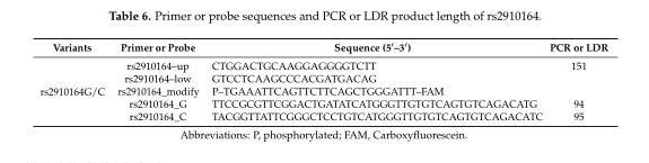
<table><thead><tr><td>Variants</td><td>Primer or Probe</td><td>Sequence (5′–3′)</td><td>PCR or LDR</td></tr></thead><tbody><tr><td rowspan="5">rs2910164G/C</td><td>rs2910164–up</td><td>CTGGACTGCAAGGAGGGGTCTT</td><td>151</td></tr><tr><td>rs2910164–low</td><td>GTCCTCAAGCCCACGATGACAG</td><td></td></tr><tr><td>rs2910164_modify</td><td>P–TGAAATTCAGTTCTTCAGCTGGGATTT–FAM</td><td></td></tr><tr><td>rs2910164_G</td><td>TTCCGCGTTCGGACTGATATCATGGGTTGTGTCAGTGTCAGACATG</td><td>94</td></tr><tr><td>rs2910164_C</td><td>TACGGTTATTCGGGCTCCTGTCATGGGTTGTGTCAGTGTCAGACATC</td><td>95</td></tr></tbody></table>